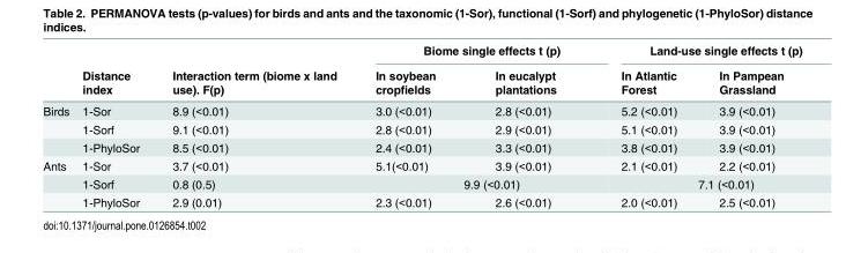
<table><thead><tr><td rowspan="2"></td><td rowspan="2">Distance index</td><td rowspan="2">Interaction term (biome x land use). F(p)</td><td colspan="2">Biome single effects t (p)</td><td colspan="2">Land-use single effects t (p)</td></tr><tr><td>In soybean cropfields</td><td>In eucalypt plantations</td><td>In Atlantic Forest</td><td>In Pampean Grassland</td></tr></thead><tbody><tr><td rowspan="3">Birds</td><td>1-Sor</td><td>8.9 (&lt;0.01)</td><td>3.0 (&lt;0.01)</td><td>2.8 (&lt;0.01)</td><td>5.2 (&lt;0.01)</td><td>3.9 (&lt;0.01)</td></tr><tr><td>1-Sorf</td><td>9.1 (&lt;0.01)</td><td>2.8 (&lt;0.01)</td><td>2.9 (&lt;0.01)</td><td>5.1 (&lt;0.01)</td><td>3.9 (&lt;0.01)</td></tr><tr><td>1-PhyloSor</td><td>8.5 (&lt;0.01)</td><td>2.4 (&lt;0.01)</td><td>3.3 (&lt;0.01)</td><td>3.8 (&lt;0.01)</td><td>3.9 (&lt;0.01)</td></tr><tr><td rowspan="3">Ants</td><td>1-Sor</td><td>3.7 (&lt;0.01)</td><td>5.1(&lt;0.01)</td><td>3.9 (&lt;0.01)</td><td>2.1 (&lt;0.01)</td><td>2.2 (&lt;0.01)</td></tr><tr><td>1-Sorf</td><td>0.8 (0.5)</td><td colspan="2">9.9 (&lt;0.01)</td><td colspan="2">7.1 (&lt;0.01)</td></tr><tr><td>1-PhyloSor</td><td>2.9 (0.01)</td><td>2.3 (&lt;0.01)</td><td>2.6 (&lt;0.01)</td><td>2.0 (&lt;0.01)</td><td>2.5 (&lt;0.01)</td></tr></tbody></table>